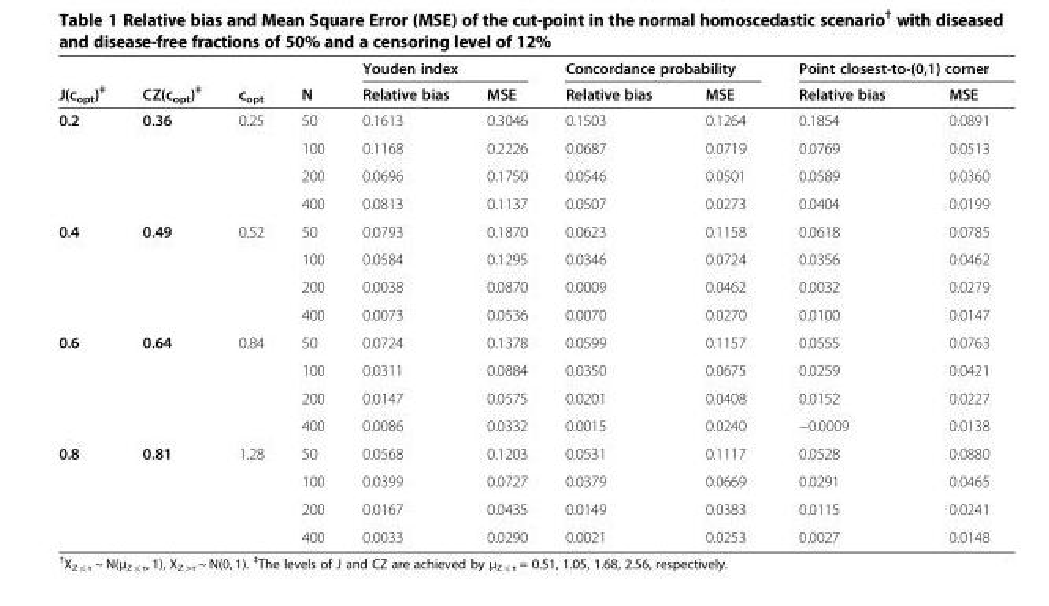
<table><thead><tr><td rowspan="2">J(c<sub>opt</sub>)<sup>‡</sup></td><td rowspan="2">CZ(c<sub>opt</sub>)<sup>‡</sup></td><td rowspan="2">c<sub>opt</sub></td><td rowspan="2">N</td><td colspan="2">Youden index</td><td colspan="2">Concordance probability</td><td colspan="2">Point closest-to-(0,1) corner</td></tr><tr><td>Relative bias</td><td>MSE</td><td>Relative bias</td><td>MSE</td><td>Relative bias</td><td>MSE</td></tr></thead><tbody><tr><td rowspan="4">0.2</td><td>0.36</td><td>0.25</td><td>50</td><td>0.1613</td><td>0.3046</td><td>0.1503</td><td>0.1264</td><td>0.1854</td><td>0.0891</td></tr><tr><td></td><td></td><td>100</td><td>0.1168</td><td>0.2226</td><td>0.0687</td><td>0.0719</td><td>0.0769</td><td>0.0513</td></tr><tr><td></td><td></td><td>200</td><td>0.0696</td><td>0.1750</td><td>0.0546</td><td>0.0501</td><td>0.0589</td><td>0.0360</td></tr><tr><td></td><td></td><td>400</td><td>0.0813</td><td>0.1137</td><td>0.0507</td><td>0.0273</td><td>0.0404</td><td>0.0199</td></tr><tr><td rowspan="4">0.4</td><td>0.49</td><td>0.52</td><td>50</td><td>0.0793</td><td>0.1870</td><td>0.0623</td><td>0.1158</td><td>0.0618</td><td>0.0785</td></tr><tr><td></td><td></td><td>100</td><td>0.0584</td><td>0.1295</td><td>0.0346</td><td>0.0724</td><td>0.0356</td><td>0.0462</td></tr><tr><td></td><td></td><td>200</td><td>0.0038</td><td>0.0870</td><td>0.0009</td><td>0.0462</td><td>0.0032</td><td>0.0279</td></tr><tr><td></td><td></td><td>400</td><td>0.0073</td><td>0.0536</td><td>0.0070</td><td>0.0270</td><td>0.0100</td><td>0.0147</td></tr><tr><td rowspan="4">0.6</td><td>0.64</td><td>0.84</td><td>50</td><td>0.0724</td><td>0.1378</td><td>0.0599</td><td>0.1157</td><td>0.0555</td><td>0.0763</td></tr><tr><td></td><td></td><td>100</td><td>0.0311</td><td>0.0884</td><td>0.0350</td><td>0.0675</td><td>0.0259</td><td>0.0421</td></tr><tr><td></td><td></td><td>200</td><td>0.0147</td><td>0.0575</td><td>0.0201</td><td>0.0408</td><td>0.0152</td><td>0.0227</td></tr><tr><td></td><td></td><td>400</td><td>0.0086</td><td>0.0332</td><td>0.0015</td><td>0.0240</td><td>−0.0009</td><td>0.0138</td></tr><tr><td rowspan="4">0.8</td><td>0.81</td><td>1.28</td><td>50</td><td>0.0568</td><td>0.1203</td><td>0.0531</td><td>0.1117</td><td>0.0528</td><td>0.0880</td></tr><tr><td></td><td></td><td>100</td><td>0.0399</td><td>0.0727</td><td>0.0379</td><td>0.0669</td><td>0.0291</td><td>0.0465</td></tr><tr><td></td><td></td><td>200</td><td>0.0167</td><td>0.0435</td><td>0.0149</td><td>0.0383</td><td>0.0115</td><td>0.0241</td></tr><tr><td></td><td></td><td>400</td><td>0.0033</td><td>0.0290</td><td>0.0021</td><td>0.0253</td><td>0.0027</td><td>0.0148</td></tr></tbody></table>